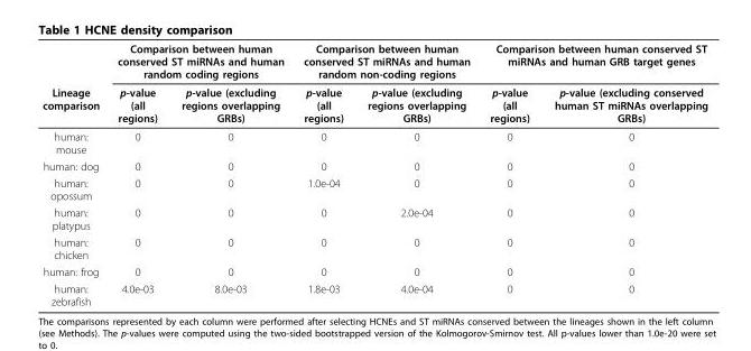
<table><thead><tr><td rowspan="2">Lineage comparison</td><td colspan="2">Comparison between human conserved ST miRNAs and human random coding regions</td><td colspan="2">Comparison between human conserved ST miRNAs and human random non-coding regions</td><td colspan="2">Comparison between human conserved ST miRNAs and human GRB target genes</td></tr><tr><td>p-value (all regions)</td><td>p-value (excluding regions overlapping GRBs)</td><td>p-value (all regions)</td><td>p-value (excluding regions overlapping GRBs)</td><td>p-value (all regions)</td><td>p-value (excluding conserved human ST miRNAs overlapping GRBs)</td></tr></thead><tbody><tr><td>human: mouse</td><td>0</td><td>0</td><td>0</td><td>0</td><td>0</td><td>0</td></tr><tr><td>human: dog</td><td>0</td><td>0</td><td>0</td><td>0</td><td>0</td><td>0</td></tr><tr><td>human: opossum</td><td>0</td><td>0</td><td>1.0e-04</td><td>0</td><td>0</td><td>0</td></tr><tr><td>human: platypus</td><td>0</td><td>0</td><td>0</td><td>2.0e-04</td><td>0</td><td>0</td></tr><tr><td>human: chicken</td><td>0</td><td>0</td><td>0</td><td>0</td><td>0</td><td>0</td></tr><tr><td>human: frog</td><td>0</td><td>0</td><td>0</td><td>0</td><td>0</td><td>0</td></tr><tr><td>human: zebrafish</td><td>4.0e-03</td><td>8.0e-03</td><td>1.8e-03</td><td>4.0e-04</td><td>0</td><td>0</td></tr></tbody></table>